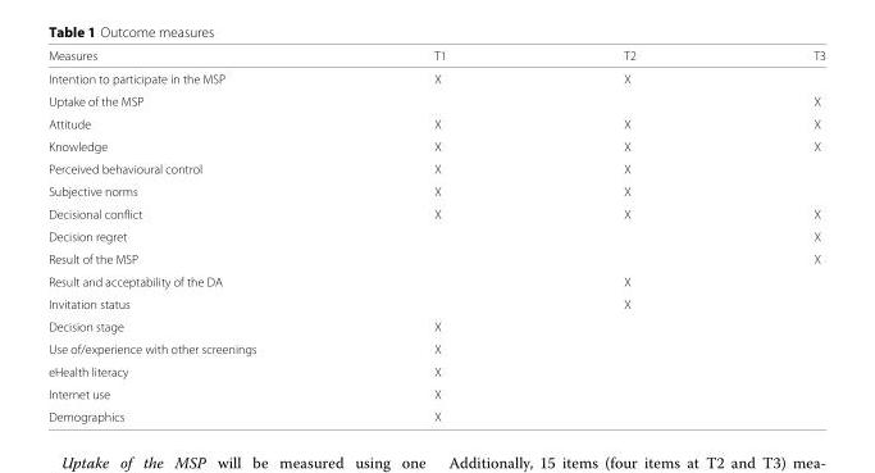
<table><thead><tr><td>Measures</td><td>T1</td><td>T2</td><td>T3</td></tr></thead><tbody><tr><td>Intention to participate in the MSP</td><td>X</td><td>X</td><td></td></tr><tr><td>Uptake of the MSP</td><td></td><td></td><td>X</td></tr><tr><td>Attitude</td><td>X</td><td>X</td><td>X</td></tr><tr><td>Knowledge</td><td>X</td><td>X</td><td>X</td></tr><tr><td>Perceived behavioural control</td><td>X</td><td>X</td><td></td></tr><tr><td>Subjective norms</td><td>X</td><td>X</td><td></td></tr><tr><td>Decisional conflict</td><td>X</td><td>X</td><td>X</td></tr><tr><td>Decision regret</td><td></td><td></td><td>X</td></tr><tr><td>Result of the MSP</td><td></td><td></td><td>X</td></tr><tr><td>Result and acceptability of the DA</td><td></td><td>X</td><td></td></tr><tr><td>Invitation status</td><td></td><td>X</td><td></td></tr><tr><td>Decision stage</td><td>X</td><td></td><td></td></tr><tr><td>Use of/experience with other screenings</td><td>X</td><td></td><td></td></tr><tr><td>eHealth literacy</td><td>X</td><td></td><td></td></tr><tr><td>Internet use</td><td>X</td><td></td><td></td></tr><tr><td>Demographics</td><td>X</td><td></td><td></td></tr></tbody></table>